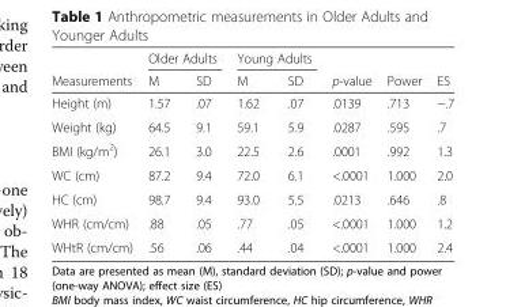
<table><thead><tr><td rowspan="2">Measurements</td><td colspan="2">Older Adults</td><td colspan="2">Young Adults</td><td rowspan="2">p-value</td><td rowspan="2">Power</td><td rowspan="2">ES</td></tr><tr><td>M</td><td>SD</td><td>M</td><td>SD</td></tr></thead><tbody><tr><td>Height (m)</td><td>1.57</td><td>.07</td><td>1.62</td><td>.07</td><td>.0139</td><td>.713</td><td>−.7</td></tr><tr><td>Weight (kg)</td><td>64.5</td><td>9.1</td><td>59.1</td><td>5.9</td><td>.0287</td><td>.595</td><td>.7</td></tr><tr><td>BMI (kg/m<sup>2</sup>)</td><td>26.1</td><td>3.0</td><td>22.5</td><td>2.6</td><td>.0001</td><td>.992</td><td>1.3</td></tr><tr><td>WC (cm)</td><td>87.2</td><td>9.4</td><td>72.0</td><td>6.1</td><td>&lt;.0001</td><td>1.000</td><td>2.0</td></tr><tr><td>HC (cm)</td><td>98.7</td><td>9.4</td><td>93.0</td><td>5.5</td><td>.0213</td><td>.646</td><td>.8</td></tr><tr><td>WHR (cm/cm)</td><td>.88</td><td>.05</td><td>.77</td><td>.05</td><td>&lt;.0001</td><td>1.000</td><td>1.2</td></tr><tr><td>WHtR (cm/cm)</td><td>.56</td><td>.06</td><td>.44</td><td>.04</td><td>&lt;.0001</td><td>1.000</td><td>2.4</td></tr></tbody></table>